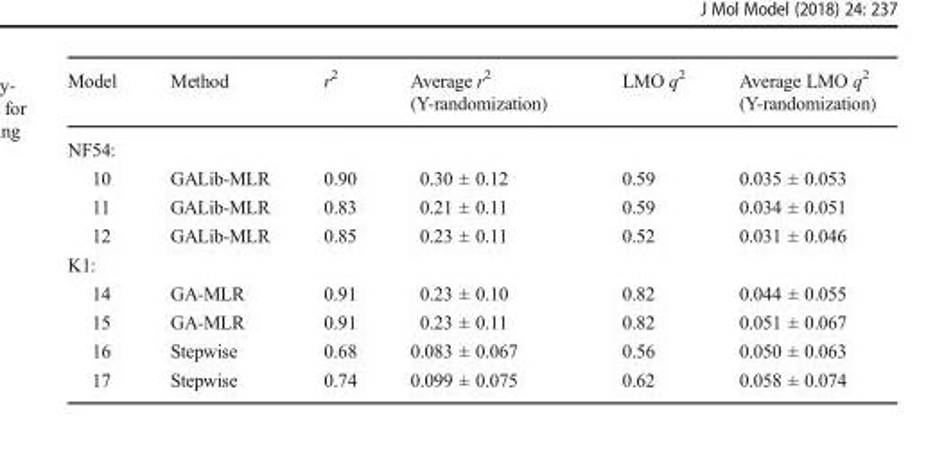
<table><thead><tr><td>Model</td><td>Method</td><td>r<sup>2</sup></td><td>Average r<sup>2</sup> (Y-randomization)</td><td>LMO q<sup>2</sup></td><td>Average LMO q<sup>2</sup> (Y-randomization)</td></tr></thead><tbody><tr><td colspan="6">NF54:</td></tr><tr><td>10</td><td>GALib-MLR</td><td>0.90</td><td>0.30 ± 0.12</td><td>0.59</td><td>0.035 ± 0.053</td></tr><tr><td>11</td><td>GALib-MLR</td><td>0.83</td><td>0.21 ± 0.11</td><td>0.59</td><td>0.034 ± 0.051</td></tr><tr><td>12</td><td>GALib-MLR</td><td>0.85</td><td>0.23 ± 0.11</td><td>0.52</td><td>0.031 ± 0.046</td></tr><tr><td colspan="6">K1:</td></tr><tr><td>14</td><td>GA-MLR</td><td>0.91</td><td>0.23 ± 0.10</td><td>0.82</td><td>0.044 ± 0.055</td></tr><tr><td>15</td><td>GA-MLR</td><td>0.91</td><td>0.23 ± 0.11</td><td>0.82</td><td>0.051 ± 0.067</td></tr><tr><td>16</td><td>Stepwise</td><td>0.68</td><td>0.083 ± 0.067</td><td>0.56</td><td>0.050 ± 0.063</td></tr><tr><td>17</td><td>Stepwise</td><td>0.74</td><td>0.099 ± 0.075</td><td>0.62</td><td>0.058 ± 0.074</td></tr></tbody></table>